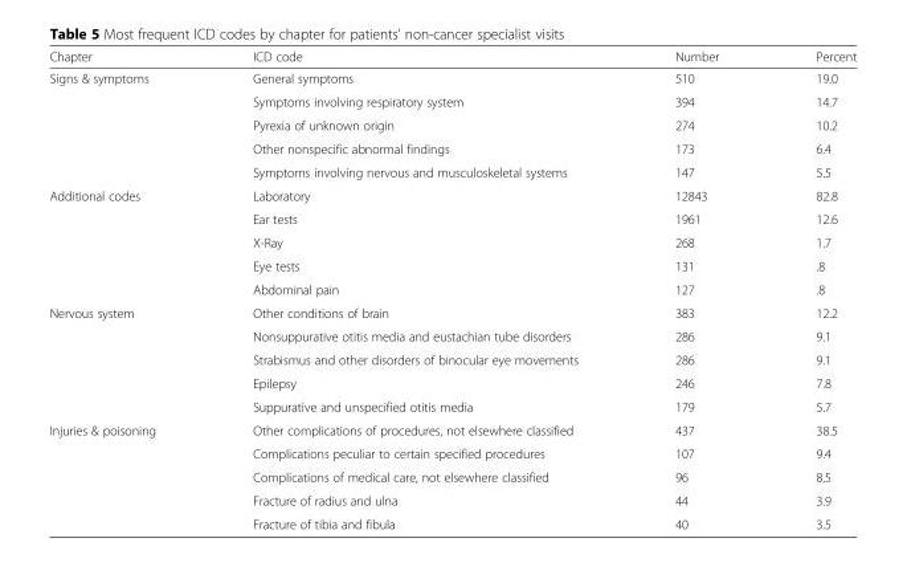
<table><thead><tr><td>Chapter</td><td>ICD code</td><td>Number</td><td>Percent</td></tr></thead><tbody><tr><td rowspan="5">Signs &amp; symptoms</td><td>General symptoms</td><td>510</td><td>19.0</td></tr><tr><td>Symptoms involving respiratory system</td><td>394</td><td>14.7</td></tr><tr><td>Pyrexia of unknown origin</td><td>274</td><td>10.2</td></tr><tr><td>Other nonspecific abnormal findings</td><td>173</td><td>6.4</td></tr><tr><td>Symptoms involving nervous and musculoskeletal systems</td><td>147</td><td>5.5</td></tr><tr><td rowspan="5">Additional codes</td><td>Laboratory</td><td>12843</td><td>82.8</td></tr><tr><td>Ear tests</td><td>1961</td><td>12.6</td></tr><tr><td>X-Ray</td><td>268</td><td>1.7</td></tr><tr><td>Eye tests</td><td>131</td><td>.8</td></tr><tr><td>Abdominal pain</td><td>127</td><td>.8</td></tr><tr><td rowspan="5">Nervous system</td><td>Other conditions of brain</td><td>383</td><td>12.2</td></tr><tr><td>Nonsuppurative otitis media and eustachian tube disorders</td><td>286</td><td>9.1</td></tr><tr><td>Strabismus and other disorders of binocular eye movements</td><td>286</td><td>9.1</td></tr><tr><td>Epilepsy</td><td>246</td><td>7.8</td></tr><tr><td>Suppurative and unspecified otitis media</td><td>179</td><td>5.7</td></tr><tr><td rowspan="5">Injuries &amp; poisoning</td><td>Other complications of procedures, not elsewhere classified</td><td>437</td><td>38.5</td></tr><tr><td>Complications peculiar to certain specified procedures</td><td>107</td><td>9.4</td></tr><tr><td>Complications of medical care, not elsewhere classified</td><td>96</td><td>8.5</td></tr><tr><td>Fracture of radius and ulna</td><td>44</td><td>3.9</td></tr><tr><td>Fracture of tibia and fibula</td><td>40</td><td>3.5</td></tr></tbody></table>